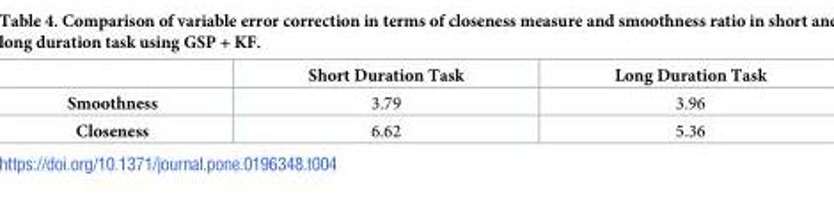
<table><thead><tr><td></td><td>Short Duration Task</td><td>Long Duration Task</td></tr></thead><tbody><tr><td>Smoothness</td><td>3.79</td><td>3.96</td></tr><tr><td>Closeness</td><td>6.62</td><td>5.36</td></tr></tbody></table>